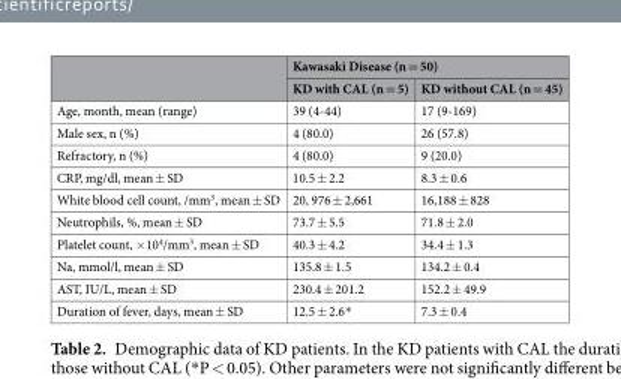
<table><thead><tr><td rowspan="2"></td><td colspan="2">Kawasaki Disease (n = 50)</td></tr><tr><td>KD with CAL (n = 5)</td><td>KD without CAL (n = 45)</td></tr></thead><tbody><tr><td>Age, month, mean (range)</td><td>39 (4-44)</td><td>17 (9-169)</td></tr><tr><td>Male sex, n (%)</td><td>4 (80.0)</td><td>26 (57.8)</td></tr><tr><td>Refractory, n (%)</td><td>4 (80.0)</td><td>9 (20.0)</td></tr><tr><td>CRP, mg/dl, mean ± SD</td><td>10.5 ± 2.2</td><td>8.3 ± 0.6</td></tr><tr><td>White blood cell count, /mm<sup>3</sup>, mean ± SD</td><td>20, 976 ± 2,661</td><td>16,188 ± 828</td></tr><tr><td>Neutrophils, %, mean ± SD</td><td>73.7 ± 5.5</td><td>71.8 ± 2.0</td></tr><tr><td>Platelet count, ×10<sup>4</sup>/mm<sup>3</sup>, mean ± SD</td><td>40.3 ± 4.2</td><td>34.4 ± 1.3</td></tr><tr><td>Na, mmol/l, mean ± SD</td><td>135.8 ± 1.5</td><td>134.2 ± 0.4</td></tr><tr><td>AST, IU/L, mean ± SD</td><td>230.4 ± 201.2</td><td>152.2 ± 49.9</td></tr><tr><td>Duration of fever, days, mean ± SD</td><td>12.5 ± 2.6*</td><td>7.3 ± 0.4</td></tr></tbody></table>